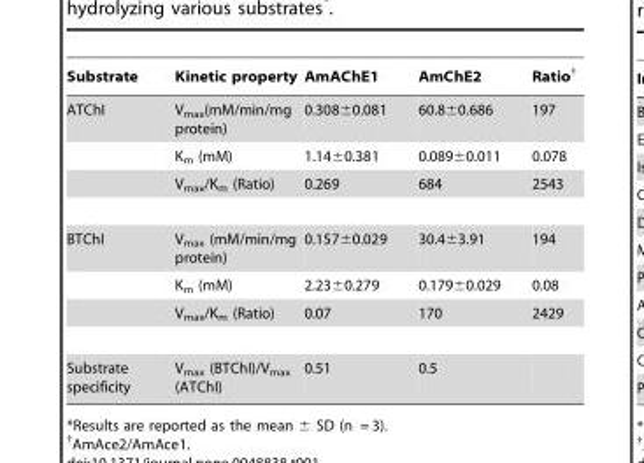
<table><thead><tr><td>Substrate</td><td>Kinetic property</td><td>AmAChE1</td><td>AmChE2</td><td>Ratio†</td></tr></thead><tbody><tr><td rowspan="3">ATChI</td><td>V<sub>max</sub>(mM/min/mg protein)</td><td>0.308±0.081</td><td>60.8±0.686</td><td>197</td></tr><tr><td>K<sub>m</sub> (mM)</td><td>1.14±0.381</td><td>0.089±0.011</td><td>0.078</td></tr><tr><td>V<sub>max</sub>/K<sub>m</sub> (Ratio)</td><td>0.269</td><td>684</td><td>2543</td></tr><tr><td rowspan="3">BTChI</td><td>V<sub>max</sub> (mM/min/mg protein)</td><td>0.157±0.029</td><td>30.4±3.91</td><td>194</td></tr><tr><td>K<sub>m</sub> (mM)</td><td>2.23±0.279</td><td>0.179±0.029</td><td>0.08</td></tr><tr><td>V<sub>max</sub>/K<sub>m</sub> (Ratio)</td><td>0.07</td><td>170</td><td>2429</td></tr><tr><td>Substrate specificity</td><td>V<sub>max</sub> (BTChI)/V<sub>max</sub> (ATChI)</td><td>0.51</td><td>0.5</td><td></td></tr></tbody></table>